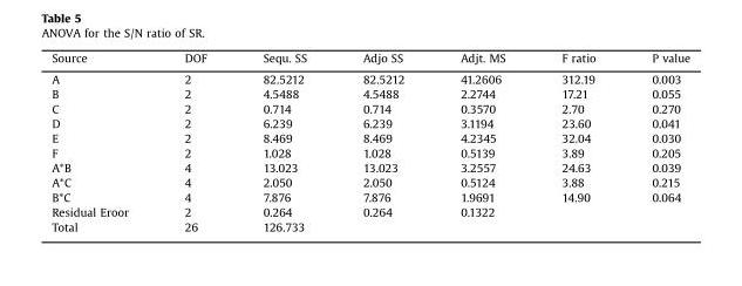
<table><thead><tr><td>Source</td><td>DOF</td><td>Sequ. SS</td><td>Adjo SS</td><td>Adjt. MS</td><td>F ratio</td><td>P value</td></tr></thead><tbody><tr><td>A</td><td>2</td><td>82.5212</td><td>82.5212</td><td>41.2606</td><td>312.19</td><td>0.003</td></tr><tr><td>B</td><td>2</td><td>4.5488</td><td>4.5488</td><td>2.2744</td><td>17.21</td><td>0.055</td></tr><tr><td>C</td><td>2</td><td>0.714</td><td>0.714</td><td>0.3570</td><td>2.70</td><td>0.270</td></tr><tr><td>D</td><td>2</td><td>6.239</td><td>6.239</td><td>3.1194</td><td>23.60</td><td>0.041</td></tr><tr><td>E</td><td>2</td><td>8.469</td><td>8.469</td><td>4.2345</td><td>32.04</td><td>0.030</td></tr><tr><td>F</td><td>2</td><td>1.028</td><td>1.028</td><td>0.5139</td><td>3.89</td><td>0.205</td></tr><tr><td>A*B</td><td>4</td><td>13.023</td><td>13.023</td><td>3.2557</td><td>24.63</td><td>0.039</td></tr><tr><td>A*C</td><td>4</td><td>2.050</td><td>2.050</td><td>0.5124</td><td>3.88</td><td>0.215</td></tr><tr><td>B*C</td><td>4</td><td>7.876</td><td>7.876</td><td>1.9691</td><td>14.90</td><td>0.064</td></tr><tr><td>Residual Eroor</td><td>2</td><td>0.264</td><td>0.264</td><td>0.1322</td><td></td><td></td></tr><tr><td>Total</td><td>26</td><td>126.733</td><td></td><td></td><td></td><td></td></tr></tbody></table>